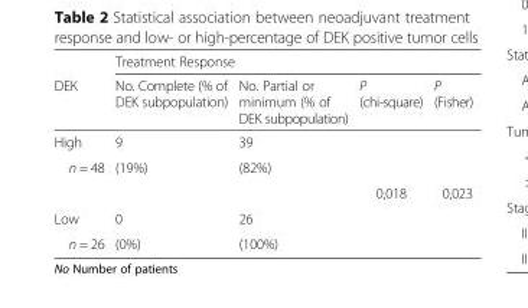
<table><thead><tr><td rowspan="2">DEK</td><td colspan="4">Treatment Response</td></tr><tr><td>No. Complete (% of DEK subpopulation)</td><td>No. Partial or minimum (% of DEK subpopulation)</td><td>P (chi-square)</td><td>P (Fisher)</td></tr></thead><tbody><tr><td>High</td><td>9</td><td>39</td><td></td><td></td></tr><tr><td rowspan="2">n = 48</td><td>(19%)</td><td>(82%)</td><td></td><td></td></tr><tr><td></td><td></td><td>0,018</td><td>0,023</td></tr><tr><td>Low</td><td>0</td><td>26</td><td></td><td></td></tr><tr><td>n = 26</td><td>(0%)</td><td>(100%)</td><td></td><td></td></tr></tbody></table>